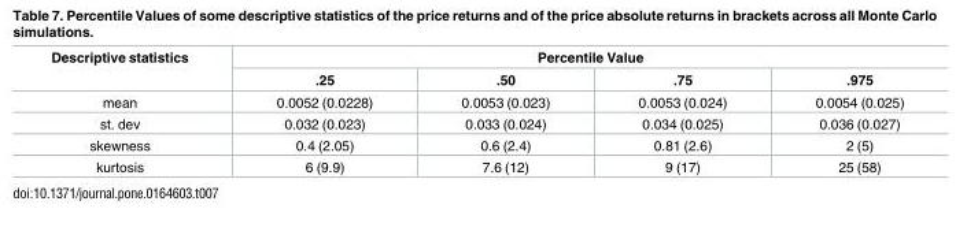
<table><thead><tr><td rowspan="2">Descriptive statistics</td><td colspan="4">Percentile Value</td></tr><tr><td>.25</td><td>.50</td><td>.75</td><td>.975</td></tr></thead><tbody><tr><td>mean</td><td>0.0052 (0.0228)</td><td>0.0053 (0.023)</td><td>0.0053 (0.024)</td><td>0.0054 (0.025)</td></tr><tr><td>st. dev</td><td>0.032 (0.023)</td><td>0.033 (0.024)</td><td>0.034 (0.025)</td><td>0.036 (0.027)</td></tr><tr><td>skewness</td><td>0.4 (2.05)</td><td>0.6 (2.4)</td><td>0.81 (2.6)</td><td>2 (5)</td></tr><tr><td>kurtosis</td><td>6 (9.9)</td><td>7.6 (12)</td><td>9 (17)</td><td>25 (58)</td></tr></tbody></table>